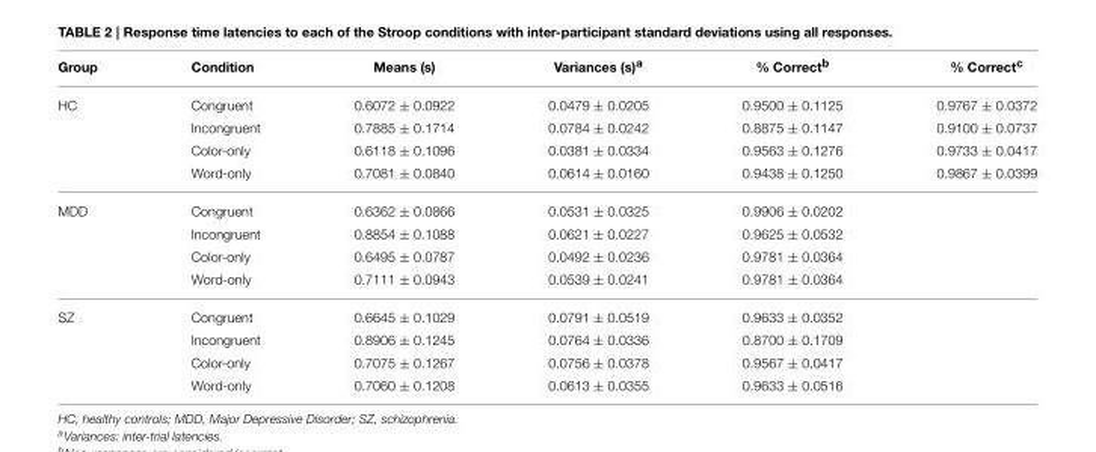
<table><thead><tr><td>Group</td><td>Condition</td><td>Means (s)</td><td>Variances (s)<sup>a</sup></td><td>% Correct<sup>b</sup></td><td>% Correct<sup>c</sup></td></tr></thead><tbody><tr><td rowspan="4">HC</td><td>Congruent</td><td>0.6072 ± 0.0922</td><td>0.0479 ± 0.0205</td><td>0.9500 ± 0.1125</td><td>0.9767 ± 0.0372</td></tr><tr><td>Incongruent</td><td>0.7885 ± 0.1714</td><td>0.0784 ± 0.0242</td><td>0.8875 ± 0.1147</td><td>0.9100 ± 0.0737</td></tr><tr><td>Color-only</td><td>0.6118 ± 0.1096</td><td>0.0381 ± 0.0334</td><td>0.9563 ± 0.1276</td><td>0.9733 ± 0.0417</td></tr><tr><td>Word-only</td><td>0.7081 ± 0.0840</td><td>0.0614 ± 0.0160</td><td>0.9438 ± 0.1250</td><td>0.9867 ± 0.0399</td></tr><tr><td rowspan="4">MDD</td><td>Congruent</td><td>0.6362 ± 0.0866</td><td>0.0531 ± 0.0325</td><td>0.9906 ± 0.0202</td><td></td></tr><tr><td>Incongruent</td><td>0.8854 ± 0.1088</td><td>0.0621 ± 0.0227</td><td>0.9625 ± 0.0532</td><td></td></tr><tr><td>Color-only</td><td>0.6495 ± 0.0787</td><td>0.0492 ± 0.0236</td><td>0.9781 ± 0.0364</td><td></td></tr><tr><td>Word-only</td><td>0.7111 ± 0.0943</td><td>0.0539 ± 0.0241</td><td>0.9781 ± 0.0364</td><td></td></tr><tr><td rowspan="4">SZ</td><td>Congruent</td><td>0.6645 ± 0.1029</td><td>0.0791 ± 0.0519</td><td>0.9633 ± 0.0352</td><td></td></tr><tr><td>Incongruent</td><td>0.8906 ± 0.1245</td><td>0.0764 ± 0.0336</td><td>0.8700 ± 0.1709</td><td></td></tr><tr><td>Color-only</td><td>0.7075 ± 0.1267</td><td>0.0756 ± 0.0378</td><td>0.9567 ± 0.0417</td><td></td></tr><tr><td>Word-only</td><td>0.7060 ± 0.1208</td><td>0.0613 ± 0.0355</td><td>0.9633 ± 0.0516</td><td></td></tr></tbody></table>